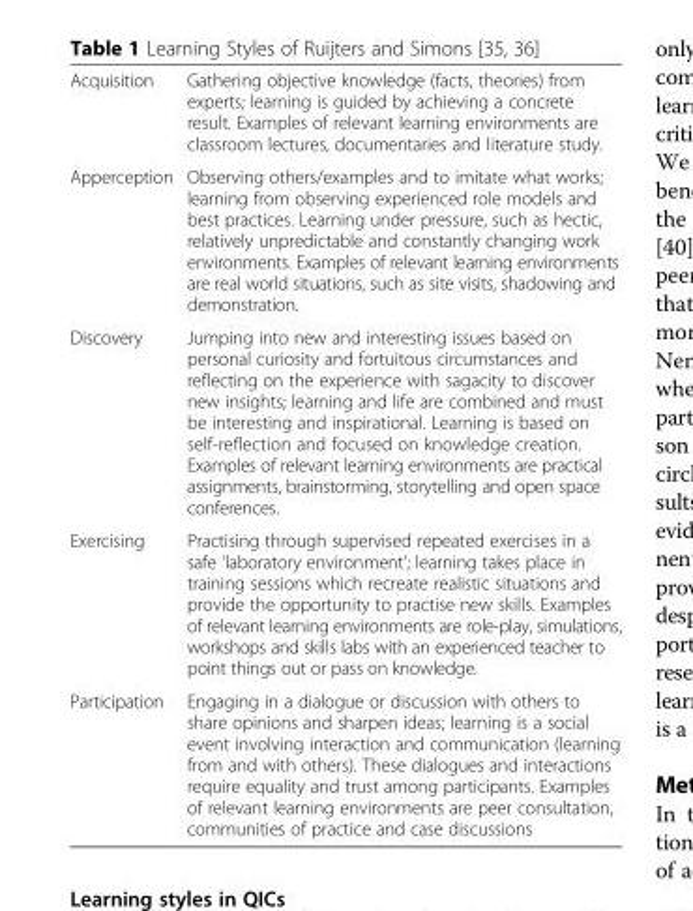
<table><tbody><tr><td>Acquisition</td><td>Gathering objective knowledge (facts, theories) from experts; learning is guided by achieving a concrete result. Examples of relevant learning environments are classroom lectures, documentaries and literature study.</td></tr><tr><td>Apperception</td><td>Observing others/examples and to imitate what works; learning from observing experienced role models and best practices. Learning under pressure, such as hectic, relatively unpredictable and constantly changing work environments. Examples of relevant learning environments are real world situations, such as site visits, shadowing and demonstration.</td></tr><tr><td>Discovery</td><td>Jumping into new and interesting issues based on personal curiosity and fortuitous circumstances and reflecting on the experience with sagacity to discover new insights; learning and life are combined and must be interesting and inspirational. Learning is based on self-reflection and focused on knowledge creation. Examples of relevant learning environments are practical assignments, brainstorming, storytelling and open space conferences.</td></tr><tr><td>Exercising</td><td>Practising through supervised repeated exercises in a safe ‘laboratory environment’; learning takes place in training sessions which recreate realistic situations and provide the opportunity to practise new skills. Examples of relevant learning environments are role-play, simulations, workshops and skills labs with an experienced teacher to point things out or pass on knowledge.</td></tr><tr><td>Participation</td><td>Engaging in a dialogue or discussion with others to share opinions and sharpen ideas; learning is a social event involving interaction and communication (learning from and with others). These dialogues and interactions require equality and trust among participants. Examples of relevant learning environments are peer consultation, communities of practice and case discussions</td></tr></tbody></table>